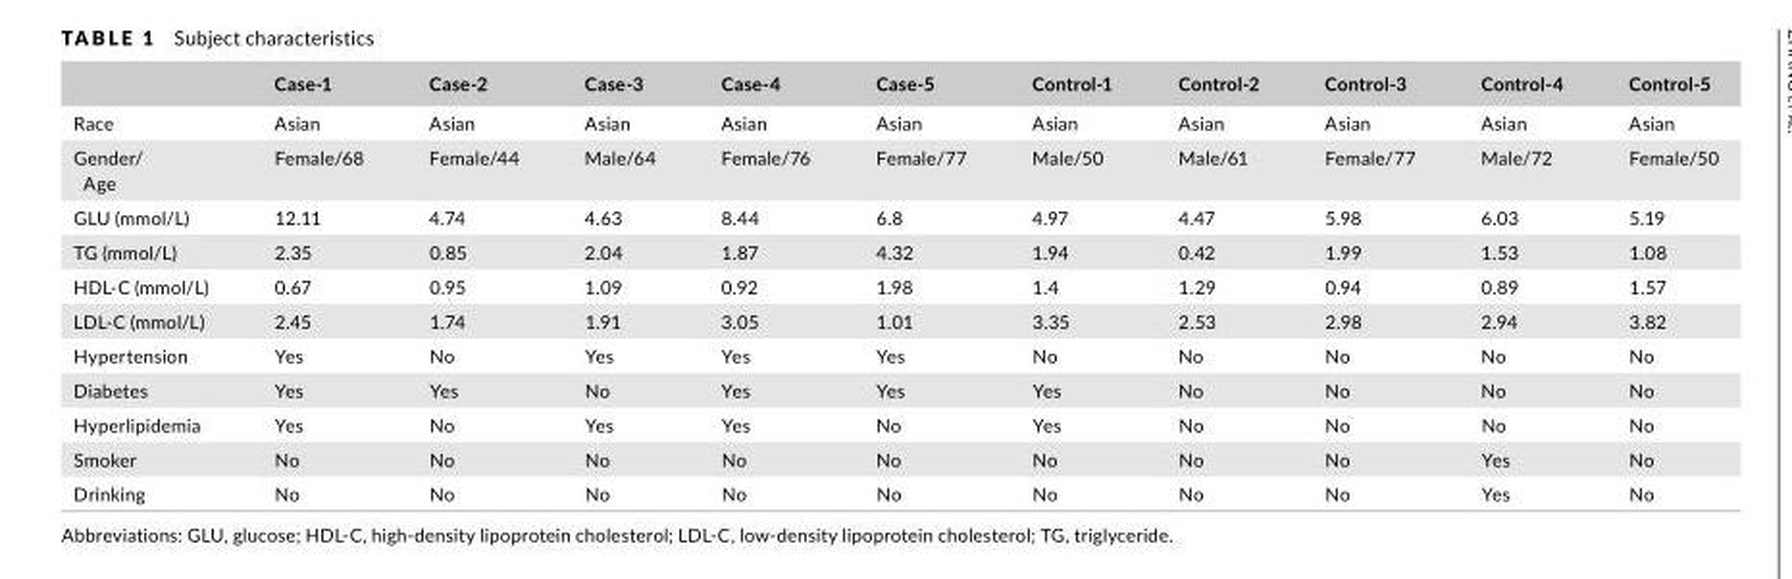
<table><thead><tr><td></td><td>Case‐1</td><td>Case‐2</td><td>Case‐3</td><td>Case‐4</td><td>Case‐5</td><td>Control‐1</td><td>Control‐2</td><td>Control‐3</td><td>Control‐4</td><td>Control‐5</td></tr></thead><tbody><tr><td>Race</td><td>Asian</td><td>Asian</td><td>Asian</td><td>Asian</td><td>Asian</td><td>Asian</td><td>Asian</td><td>Asian</td><td>Asian</td><td>Asian</td></tr><tr><td>Gender/ Age</td><td>Female/68</td><td>Female/44</td><td>Male/64</td><td>Female/76</td><td>Female/77</td><td>Male/50</td><td>Male/61</td><td>Female/77</td><td>Male/72</td><td>Female/50</td></tr><tr><td>GLU (mmol/L)</td><td>12.11</td><td>4.74</td><td>4.63</td><td>8.44</td><td>6.8</td><td>4.97</td><td>4.47</td><td>5.98</td><td>6.03</td><td>5.19</td></tr><tr><td>TG (mmol/L)</td><td>2.35</td><td>0.85</td><td>2.04</td><td>1.87</td><td>4.32</td><td>1.94</td><td>0.42</td><td>1.99</td><td>1.53</td><td>1.08</td></tr><tr><td>HDL‐C (mmol/L)</td><td>0.67</td><td>0.95</td><td>1.09</td><td>0.92</td><td>1.98</td><td>1.4</td><td>1.29</td><td>0.94</td><td>0.89</td><td>1.57</td></tr><tr><td>LDL‐C (mmol/L)</td><td>2.45</td><td>1.74</td><td>1.91</td><td>3.05</td><td>1.01</td><td>3.35</td><td>2.53</td><td>2.98</td><td>2.94</td><td>3.82</td></tr><tr><td>Hypertension</td><td>Yes</td><td>No</td><td>Yes</td><td>Yes</td><td>Yes</td><td>No</td><td>No</td><td>No</td><td>No</td><td>No</td></tr><tr><td>Diabetes</td><td>Yes</td><td>Yes</td><td>No</td><td>Yes</td><td>Yes</td><td>Yes</td><td>No</td><td>No</td><td>No</td><td>No</td></tr><tr><td>Hyperlipidemia</td><td>Yes</td><td>No</td><td>Yes</td><td>Yes</td><td>No</td><td>Yes</td><td>No</td><td>No</td><td>No</td><td>No</td></tr><tr><td>Smoker</td><td>No</td><td>No</td><td>No</td><td>No</td><td>No</td><td>No</td><td>No</td><td>No</td><td>Yes</td><td>No</td></tr><tr><td>Drinking</td><td>No</td><td>No</td><td>No</td><td>No</td><td>No</td><td>No</td><td>No</td><td>No</td><td>Yes</td><td>No</td></tr></tbody></table>